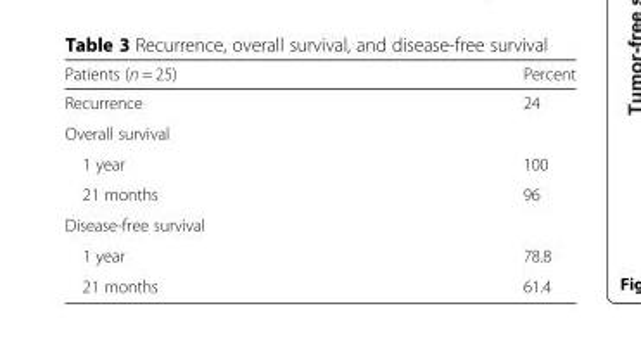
<table><thead><tr><td>Patients (n = 25)</td><td>Percent</td></tr></thead><tbody><tr><td>Recurrence</td><td>24</td></tr><tr><td colspan="2">Overall survival</td></tr><tr><td>1 year</td><td>100</td></tr><tr><td>21 months</td><td>96</td></tr><tr><td colspan="2">Disease-free survival</td></tr><tr><td>1 year</td><td>78.8</td></tr><tr><td>21 months</td><td>61.4</td></tr></tbody></table>